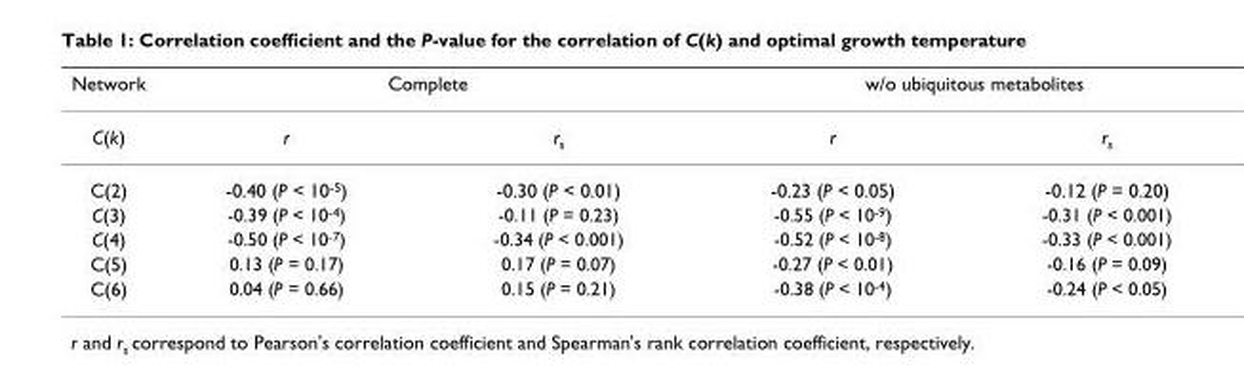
<table><thead><tr><td rowspan="2">Network C(k)</td><td colspan="2">Complete</td><td colspan="2">w/o ubiquitous metabolites</td></tr><tr><td>r</td><td>rs</td><td>r</td><td>rs</td></tr></thead><tbody><tr><td>C(2)</td><td>-0.40 (P &lt; 10<sup>-5</sup>)</td><td>-0.30 (P &lt; 0.01)</td><td>-0.23 (P &lt; 0.05)</td><td>-0.12 (P = 0.20)</td></tr><tr><td>C(3)</td><td>-0.39 (P &lt; 10<sup>-4</sup>)</td><td>-0.11 (P = 0.23)</td><td>-0.55 (P &lt; 10<sup>-9</sup>)</td><td>-0.31 (P &lt; 0.001)</td></tr><tr><td>C(4)</td><td>-0.50 (P &lt; 10<sup>-7</sup>)</td><td>-0.34 (P &lt; 0.001)</td><td>-0.52 (P &lt; 10<sup>-8</sup>)</td><td>-0.33 (P &lt; 0.001)</td></tr><tr><td>C(5)</td><td>0.13 (P = 0.17)</td><td>0.17 (P = 0.07)</td><td>-0.27 (P &lt; 0.01)</td><td>-0.16 (P = 0.09)</td></tr><tr><td>C(6)</td><td>0.04 (P = 0.66)</td><td>0.15 (P = 0.21)</td><td>-0.38 (P &lt; 10<sup>-4</sup>)</td><td>-0.24 (P &lt; 0.05)</td></tr></tbody></table>